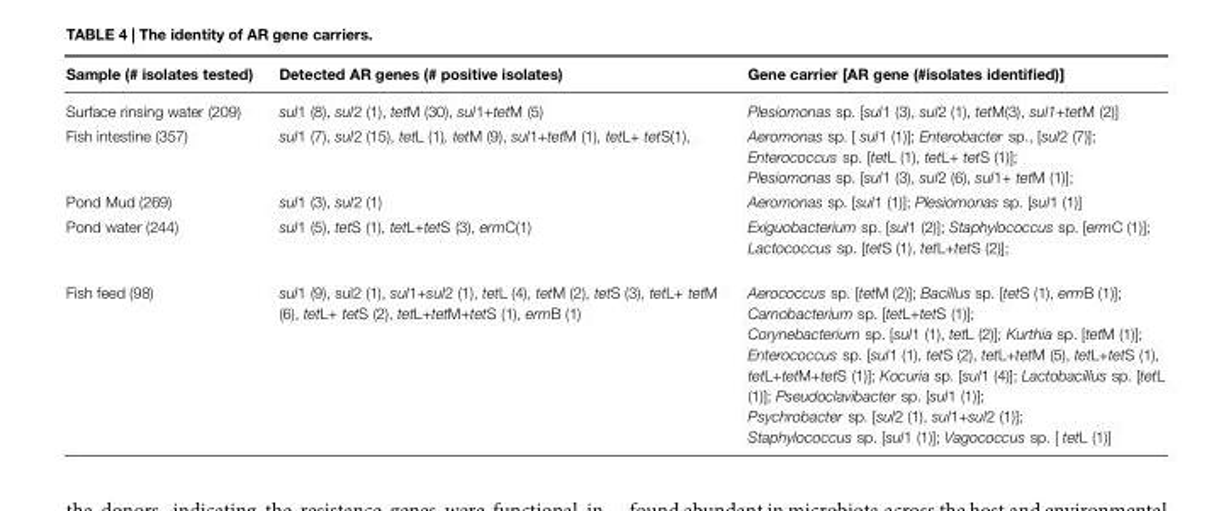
<table><thead><tr><td>Sample (# isolates tested)</td><td>Detected AR genes (# positive isolates)</td><td>Gene carrier [AR gene (#isolates identified)]</td></tr></thead><tbody><tr><td>Surface rinsing water (209)</td><td>sul1 (8), sul2 (1), tetM (30), sul1+tetM (5)</td><td>Plesiomonas sp. [sul1 (3), sul2 (1), tetM(3), sul1+tetM (2)]</td></tr><tr><td>Fish intestine (357)</td><td>sul1 (7), sul2 (15), tetL (1), tetM (9), sul1+tetM (1), tetL+ tetS(1),</td><td>Aeromonas sp. [ sul1 (1)]; Enterobacter sp., [sul2 (7)]; Enterococcus sp. [tetL (1), tetL+ tetS (1)]; Plesiomonas sp. [sul1 (3), sul2 (6), sul1+ tetM (1)];</td></tr><tr><td>Pond Mud (269)</td><td>sul1 (3), sul2 (1)</td><td>Aeromonas sp. [sul1 (1)]; Plesiomonas sp. [sul1 (1)]</td></tr><tr><td>Pond water (244)</td><td>sul1 (5), tetS (1), tetL+tetS (3), ermC(1)</td><td>Exiguobacterium sp. [sul1 (2)]; Staphylococcus sp. [ermC (1)]; Lactococcus sp. [tetS (1), tetL+tetS (2)];</td></tr><tr><td>Fish feed (98)</td><td>sul1 (9), sul2 (1), sul1+sul2 (1), tetL (4), tetM (2), tetS (3), tetL+ tetM (6), tetL+ tetS (2), tetL+tetM+tetS (1), ermB (1)</td><td>Aerococcus sp. [tetM (2)]; Bacillus sp. [tetS (1), ermB (1)]; Carnobacterium sp. [tetL+tetS (1)]; Corynebacterium sp. [sul1 (1), tetL (2)]; Kurthia sp. [tetM (1)]; Enterococcus sp. [sul1 (1), tetS (2), tetL+tetM (5), tetL+tetS (1), tetL+tetM+tetS (1)]; Kocuria sp. [sul1 (4)]; Lactobacillus sp. [tetL (1)]; Pseudoclavibacter sp. [sul1 (1)]; Psychrobacter sp. [sul2 (1), sul1+sul2 (1)]; Staphylococcus sp. [sul1 (1)]; Vagococcus sp. [ tetL (1)]</td></tr></tbody></table>